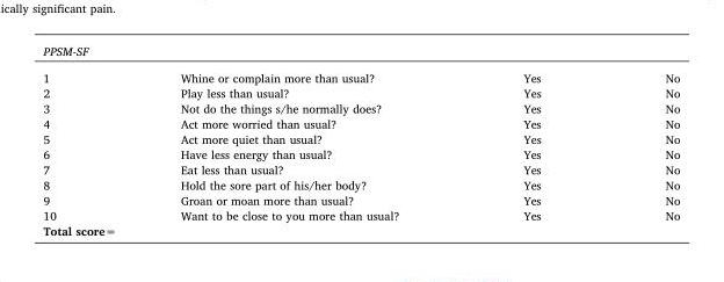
<table><thead><tr><td colspan="4">PPSM-SF</td></tr><tr><td>1</td><td>Whine or complain more than usual?</td><td>Yes</td><td>No</td></tr></thead><tbody><tr><td>2</td><td>Play less than usual?</td><td>Yes</td><td>No</td></tr><tr><td>3</td><td>Not do the things s/he normally does?</td><td>Yes</td><td>No</td></tr><tr><td>4</td><td>Act more worried than usual?</td><td>Yes</td><td>No</td></tr><tr><td>5</td><td>Act more quiet than usual?</td><td>Yes</td><td>No</td></tr><tr><td>6</td><td>Have less energy than usual?</td><td>Yes</td><td>No</td></tr><tr><td>7</td><td>Eat less than usual?</td><td>Yes</td><td>No</td></tr><tr><td>8</td><td>Hold the sore part of his/her body?</td><td>Yes</td><td>No</td></tr><tr><td>9</td><td>Groan or moan more than usual?</td><td>Yes</td><td>No</td></tr><tr><td>10</td><td>Want to be close to you more than usual?</td><td>Yes</td><td>No</td></tr><tr><td colspan="4">Total score=</td></tr></tbody></table>